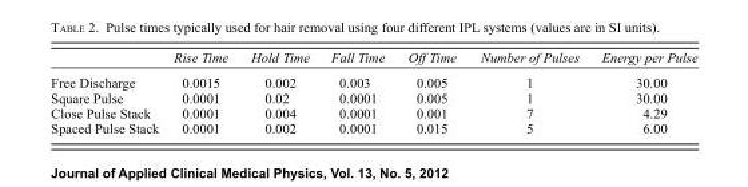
<table><thead><tr><td></td><td>Rise Time</td><td>Hold Time</td><td>Fall Time</td><td>Off Time</td><td>Number of Pulses</td><td>Energy per Pulse</td></tr></thead><tbody><tr><td>Free Discharge</td><td>0.0015</td><td>0.002</td><td>0.003</td><td>0.005</td><td>1</td><td>30.00</td></tr><tr><td>Square Pulse</td><td>0.0001</td><td>0.02</td><td>0.0001</td><td>0.005</td><td>1</td><td>30.00</td></tr><tr><td>Close Pulse Stack</td><td>0.0001</td><td>0.004</td><td>0.0001</td><td>0.001</td><td>7</td><td>4.29</td></tr><tr><td>Spaced Pulse Stack</td><td>0.0001</td><td>0.002</td><td>0.0001</td><td>0.015</td><td>5</td><td>6.00</td></tr></tbody></table>